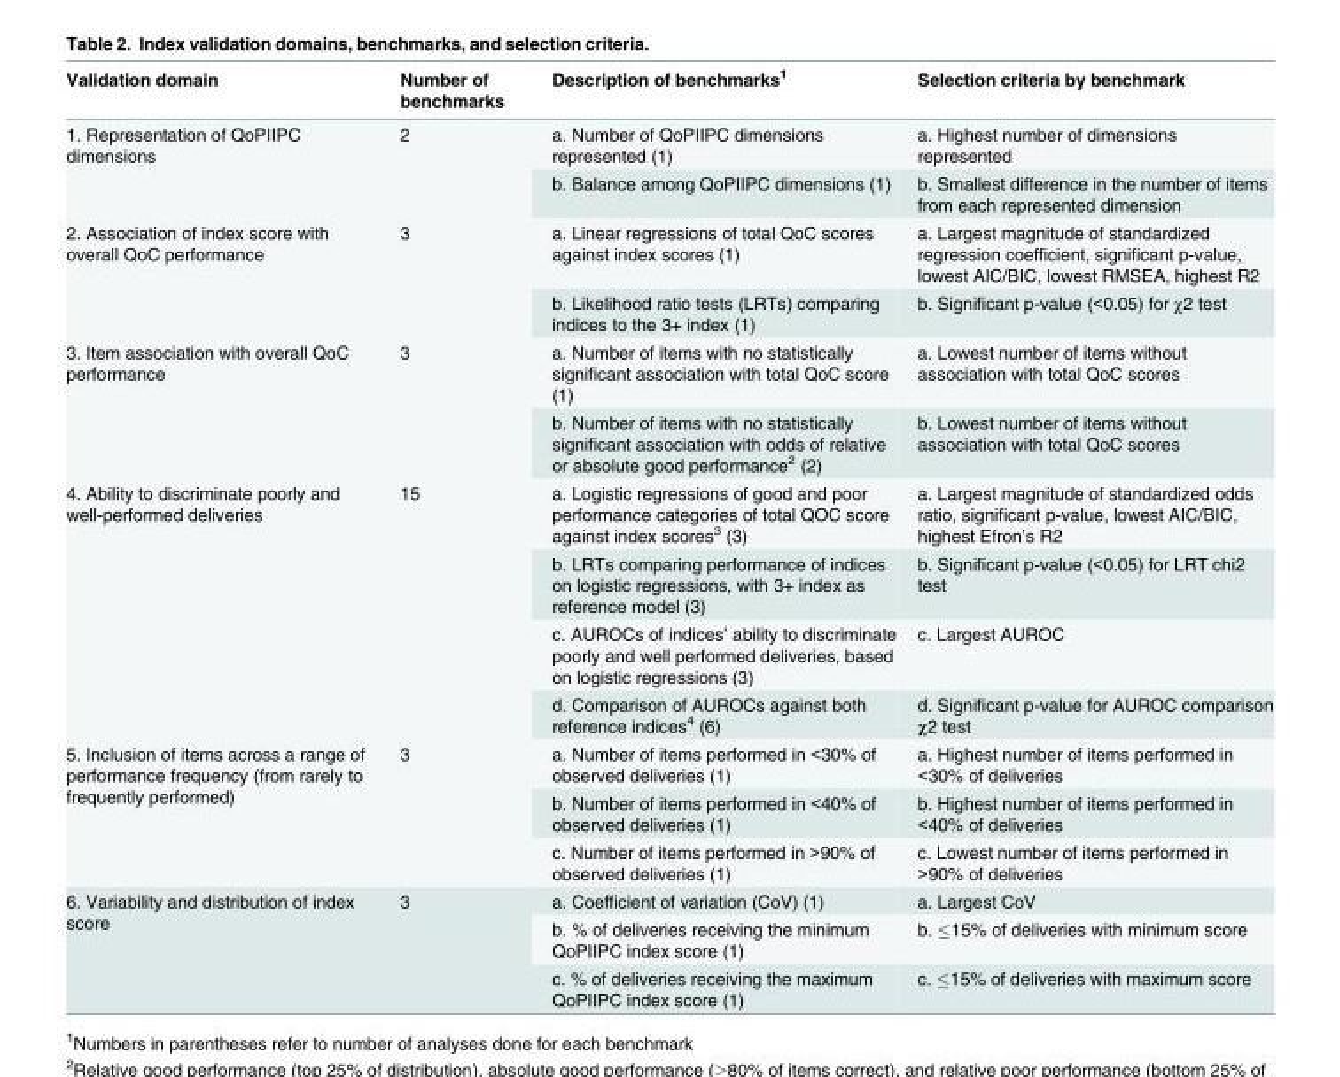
<table><thead><tr><td>Validation domain</td><td>Number of benchmarks</td><td>Description of benchmarks<sup>1</sup></td><td>Selection criteria by benchmark</td></tr></thead><tbody><tr><td rowspan="2">1. Representation of QoPIIPC dimensions</td><td rowspan="2">2</td><td>a. Number of QoPIIPC dimensions represented (1)</td><td>a. Highest number of dimensions represented</td></tr><tr><td>b. Balance among QoPIIPC dimensions (1)</td><td>b. Smallest difference in the number of items from each represented dimension</td></tr><tr><td rowspan="2">2. Association of index score with overall QoC performance</td><td rowspan="2">3</td><td>a. Linear regressions of total QoC scores against index scores (1)</td><td>a. Largest magnitude of standardized regression coefficient, significant p-value, lowest AIC/BIC, lowest RMSEA, highest R2</td></tr><tr><td>b. Likelihood ratio tests (LRTs) comparing indices to the 3+ index (1)</td><td>b. Significant p-value (&lt;0.05) for χ2 test</td></tr><tr><td rowspan="2">3. Item association with overall QoC performance</td><td rowspan="2">3</td><td>a. Number of items with no statistically significant association with total QoC score (1)</td><td>a. Lowest number of items without association with total QoC scores</td></tr><tr><td>b. Number of items with no statistically significant association with odds of relative or absolute good performance<sup>2</sup> (2)</td><td>b. Lowest number of items without association with total QoC scores</td></tr><tr><td rowspan="4">4. Ability to discriminate poorly and well-performed deliveries</td><td rowspan="4">15</td><td>a. Logistic regressions of good and poor performance categories of total QOC score against index scores<sup>3</sup> (3)</td><td>a. Largest magnitude of standardized odds ratio, significant p-value, lowest AIC/BIC, highest Efron’s R2</td></tr><tr><td>b. LRTs comparing performance of indices on logistic regressions, with 3+ index as reference model (3)</td><td>b. Significant p-value (&lt;0.05) for LRT chi2 test</td></tr><tr><td>c. AUROCs of indices’ ability to discriminate poorly and well performed deliveries, based on logistic regressions (3)</td><td>c. Largest AUROC</td></tr><tr><td>d. Comparison of AUROCs against both reference indices<sup>4</sup> (6)</td><td>d. Significant p-value for AUROC comparison χ2 test</td></tr><tr><td rowspan="3">5. Inclusion of items across a range of performance frequency (from rarely to frequently performed)</td><td rowspan="3">3</td><td>a. Number of items performed in &lt;30% of observed deliveries (1)</td><td>a. Highest number of items performed in &lt;30% of deliveries</td></tr><tr><td>b. Number of items performed in &lt;40% of observed deliveries (1)</td><td>b. Highest number of items performed in &lt;40% of deliveries</td></tr><tr><td>c. Number of items performed in &gt;90% of observed deliveries (1)</td><td>c. Lowest number of items performed in &gt;90% of deliveries</td></tr><tr><td rowspan="3">6. Variability and distribution of index score</td><td rowspan="3">3</td><td>a. Coefficient of variation (CoV) (1)</td><td>a. Largest CoV</td></tr><tr><td>b. % of deliveries receiving the minimum QoPIIPC index score (1)</td><td>b. ≤15% of deliveries with minimum score</td></tr><tr><td>c. % of deliveries receiving the maximum QoPIIPC index score (1)</td><td>c. ≤15% of deliveries with maximum score</td></tr></tbody></table>